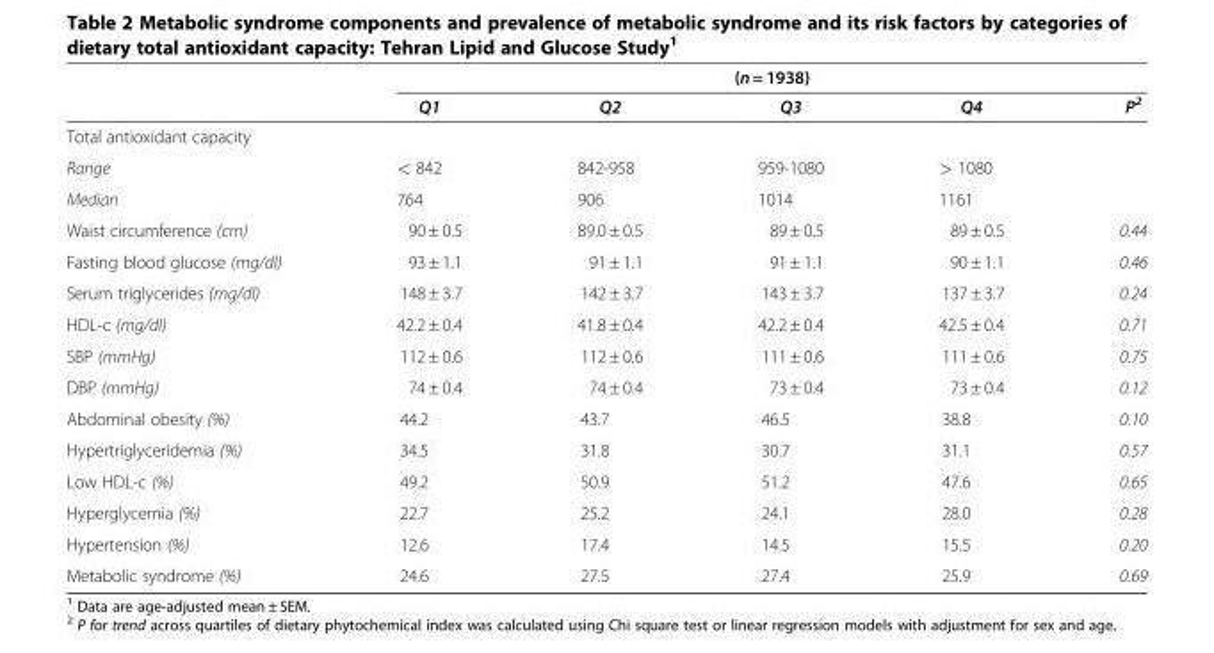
<table><thead><tr><td rowspan="2"></td><td colspan="5">(n = 1938)</td></tr><tr><td>Q1</td><td>Q2</td><td>Q3</td><td>Q4</td><td>P<sup>2</sup></td></tr></thead><tbody><tr><td colspan="6">Total antioxidant capacity</td></tr><tr><td>Range</td><td>&lt; 842</td><td>842-958</td><td>959-1080</td><td>&gt; 1080</td><td></td></tr><tr><td>Median</td><td>764</td><td>906</td><td>1014</td><td>1161</td><td></td></tr><tr><td>Waist circumference (cm)</td><td>90 ± 0.5</td><td>89.0 ± 0.5</td><td>89 ± 0.5</td><td>89 ± 0.5</td><td>0.44</td></tr><tr><td>Fasting blood glucose (mg/dl)</td><td>93 ± 1.1</td><td>91 ± 1.1</td><td>91 ± 1.1</td><td>90 ± 1.1</td><td>0.46</td></tr><tr><td>Serum triglycerides (mg/dl)</td><td>148 ± 3.7</td><td>142 ± 3.7</td><td>143 ± 3.7</td><td>137 ± 3.7</td><td>0.24</td></tr><tr><td>HDL-c (mg/dl)</td><td>42.2 ± 0.4</td><td>41.8 ± 0.4</td><td>42.2 ± 0.4</td><td>42.5 ± 0.4</td><td>0.71</td></tr><tr><td>SBP (mmHg)</td><td>112 ± 0.6</td><td>112 ± 0.6</td><td>111 ± 0.6</td><td>111 ± 0.6</td><td>0.75</td></tr><tr><td>DBP (mmHg)</td><td>74 ± 0.4</td><td>74 ± 0.4</td><td>73 ± 0.4</td><td>73 ± 0.4</td><td>0.12</td></tr><tr><td>Abdominal obesity (%)</td><td>44.2</td><td>43.7</td><td>46.5</td><td>38.8</td><td>0.10</td></tr><tr><td>Hypertriglyceridemia (%)</td><td>34.5</td><td>31.8</td><td>30.7</td><td>31.1</td><td>0.57</td></tr><tr><td>Low HDL-c (%)</td><td>49.2</td><td>50.9</td><td>51.2</td><td>47.6</td><td>0.65</td></tr><tr><td>Hyperglycemia (%)</td><td>22.7</td><td>25.2</td><td>24.1</td><td>28.0</td><td>0.28</td></tr><tr><td>Hypertension (%)</td><td>12.6</td><td>17.4</td><td>14.5</td><td>15.5</td><td>0.20</td></tr><tr><td>Metabolic syndrome (%)</td><td>24.6</td><td>27.5</td><td>27.4</td><td>25.9</td><td>0.69</td></tr></tbody></table>